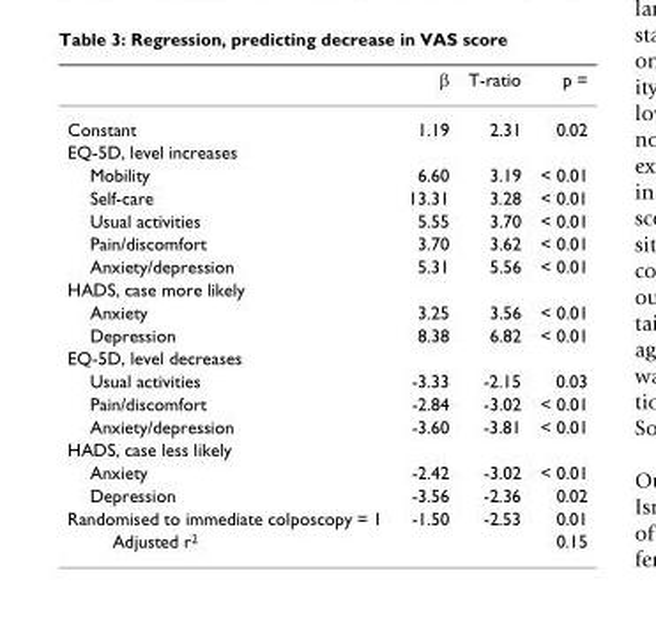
<table><thead><tr><td></td><td>β</td><td>T-ratio</td><td>p =</td></tr></thead><tbody><tr><td>Constant</td><td>1.19</td><td>2.31</td><td>0.02</td></tr><tr><td colspan="4">EQ-5D, level increases</td></tr><tr><td>Mobility</td><td>6.60</td><td>3.19</td><td>&lt; 0.01</td></tr><tr><td>Self-care</td><td>13.31</td><td>3.28</td><td>&lt; 0.01</td></tr><tr><td>Usual activities</td><td>5.55</td><td>3.70</td><td>&lt; 0.01</td></tr><tr><td>Pain/discomfort</td><td>3.70</td><td>3.62</td><td>&lt; 0.01</td></tr><tr><td>Anxiety/depression</td><td>5.31</td><td>5.56</td><td>&lt; 0.01</td></tr><tr><td colspan="4">HADS, case more likely</td></tr><tr><td>Anxiety</td><td>3.25</td><td>3.56</td><td>&lt; 0.01</td></tr><tr><td>Depression</td><td>8.38</td><td>6.82</td><td>&lt; 0.01</td></tr><tr><td colspan="4">EQ-5D, level decreases</td></tr><tr><td>Usual activities</td><td>-3.33</td><td>-2.15</td><td>0.03</td></tr><tr><td>Pain/discomfort</td><td>-2.84</td><td>-3.02</td><td>&lt; 0.01</td></tr><tr><td>Anxiety/depression</td><td>-3.60</td><td>-3.81</td><td>&lt; 0.01</td></tr><tr><td colspan="4">HADS, case less likely</td></tr><tr><td>Anxiety</td><td>-2.42</td><td>-3.02</td><td>&lt; 0.01</td></tr><tr><td>Depression</td><td>-3.56</td><td>-2.36</td><td>0.02</td></tr><tr><td>Randomised to immediate colposcopy = 1</td><td>-1.50</td><td>-2.53</td><td>0.01</td></tr><tr><td>Adjusted r<sup>2</sup></td><td></td><td></td><td>0.15</td></tr></tbody></table>